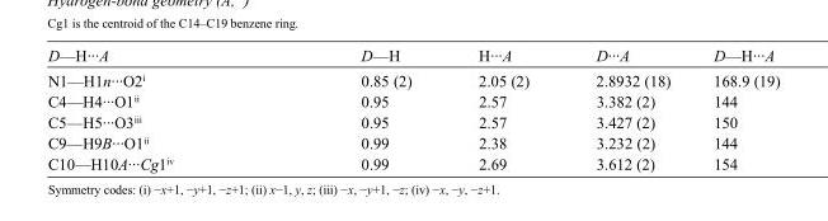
<table><tbody><tr><td>D—H···A</td><td>D—H</td><td>H···A</td><td>D···A</td><td>D—H···A</td></tr><tr><td>N1—H1n···O2<sup>i</sup></td><td>0.85 (2)</td><td>2.05 (2)</td><td>2.8932 (18)</td><td>168.9 (19)</td></tr><tr><td>C4—H4···O1<sup>ii</sup></td><td>0.95</td><td>2.57</td><td>3.382 (2)</td><td>144</td></tr><tr><td>C5—H5···O3<sup>iii</sup></td><td>0.95</td><td>2.57</td><td>3.427 (2)</td><td>150</td></tr><tr><td>C9—H9B···O1<sup>ii</sup></td><td>0.99</td><td>2.38</td><td>3.232 (2)</td><td>144</td></tr><tr><td>C10—H10A···Cg1<sup>iv</sup></td><td>0.99</td><td>2.69</td><td>3.612 (2)</td><td>154</td></tr></tbody></table>